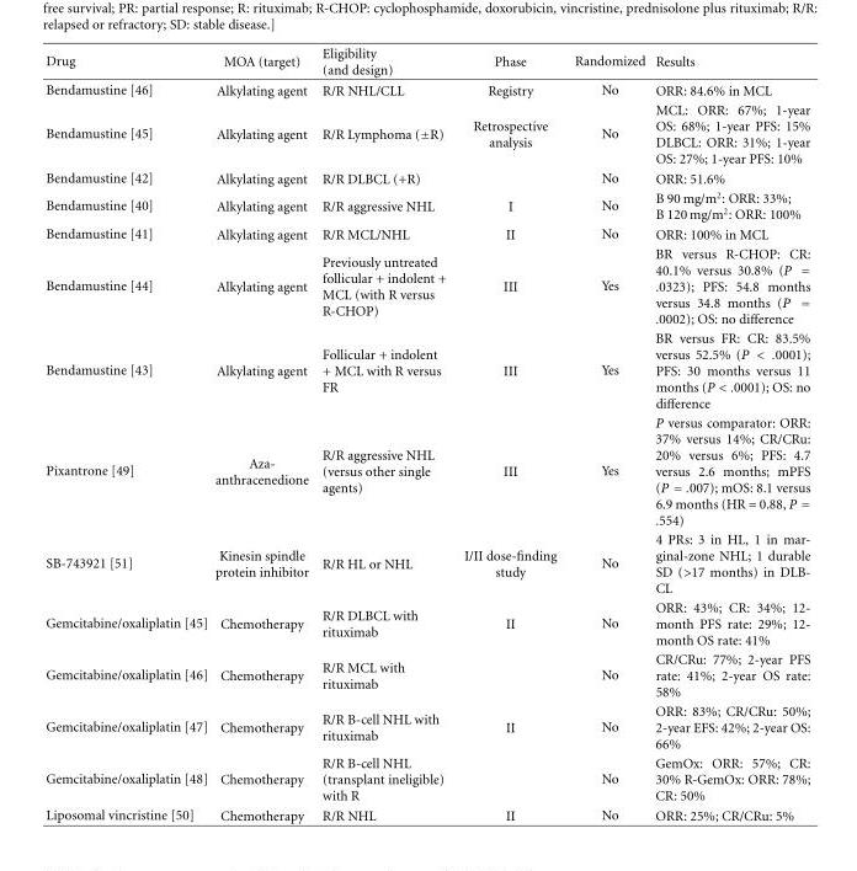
<table><thead><tr><td>Drug</td><td>MOA (target)</td><td>Eligibility (and design)</td><td>Phase</td><td>Randomized</td><td>Results</td></tr></thead><tbody><tr><td>Bendamustine [46]</td><td>Alkylating agent</td><td>R/R NHL/CLL</td><td>Registry</td><td>No</td><td>ORR: 84.6% in MCL</td></tr><tr><td>Bendamustine [45]</td><td>Alkylating agent</td><td>R/R Lymphoma (±R)</td><td>Retrospective analysis</td><td>No</td><td>MCL: ORR: 67%; 1-year OS: 68%; 1-year PFS: 15% DLBCL: ORR: 31%; 1-year OS: 27%; 1-year PFS: 10%</td></tr><tr><td>Bendamustine [42]</td><td>Alkylating agent</td><td>R/R DLBCL (+R)</td><td></td><td>No</td><td>ORR: 51.6%</td></tr><tr><td>Bendamustine [40]</td><td>Alkylating agent</td><td>R/R aggressive NHL</td><td>I</td><td>No</td><td>B 90 mg/m<sup>2</sup>: ORR: 33%; B 120 mg/m<sup>2</sup>: ORR: 100%</td></tr><tr><td>Bendamustine [41]</td><td>Alkylating agent</td><td>R/R MCL/NHL</td><td>II</td><td>No</td><td>ORR: 100% in MCL</td></tr><tr><td>Bendamustine [44]</td><td>Alkylating agent</td><td>Previously untreated follicular + indolent + MCL (with R versus R-CHOP)</td><td>III</td><td>Yes</td><td>BR versus R-CHOP: CR: 40.1% versus 30.8% (P = .0323); PFS: 54.8 months versus 34.8 months (P = .0002); OS: no difference</td></tr><tr><td>Bendamustine [43]</td><td>Alkylating agent</td><td>Follicular + indolent + MCL with R versus FR</td><td>III</td><td>Yes</td><td>BR versus FR: CR: 83.5% versus 52.5% (P &lt; .0001); PFS: 30 months versus 11 months (P &lt; .0001); OS: no difference</td></tr><tr><td>Pixantrone [49]</td><td>Aza- anthracenedione</td><td>R/R aggressive NHL (versus other single agents)</td><td>III</td><td>Yes</td><td>P versus comparator: ORR: 37% versus 14%; CR/CRu: 20% versus 6%; PFS: 4.7 versus 2.6 months; mPFS (P = .007); mOS: 8.1 versus 6.9 months (HR = 0.88, P = .554)</td></tr><tr><td>SB-743921 [51]</td><td>Kinesin spindle protein inhibitor</td><td>R/R HL or NHL</td><td>I/II dose-finding study</td><td>No</td><td>4 PRs: 3 in HL, 1 in mar- ginal-zone NHL; 1 durable SD (&gt;17 months) in DLB- CL</td></tr><tr><td>Gemcitabine/oxaliplatin [45]</td><td>Chemotherapy</td><td>R/R DLBCL with rituximab</td><td>II</td><td>No</td><td>ORR: 43%; CR: 34%; 12- month PFS rate: 29%; 12- month OS rate: 41%</td></tr><tr><td>Gemcitabine/oxaliplatin [46]</td><td>Chemotherapy</td><td>R/R MCL with rituximab</td><td></td><td>No</td><td>CR/CRu: 77%; 2-year PFS rate: 41%; 2-year OS rate: 58%</td></tr><tr><td>Gemcitabine/oxaliplatin [47]</td><td>Chemotherapy</td><td>R/R B-cell NHL with rituximab</td><td>II</td><td>No</td><td>ORR: 83%; CR/CRu: 50%; 2-year EFS: 42%; 2-year OS: 66%</td></tr><tr><td>Gemcitabine/oxaliplatin [48]</td><td>Chemotherapy</td><td>R/R B-cell NHL (transplant ineligible) with R</td><td></td><td>No</td><td>GemOx: ORR: 57%; CR: 30% R-GemOx: ORR: 78%; CR: 50%</td></tr><tr><td>Liposomal vincristine [50]</td><td>Chemotherapy</td><td>R/R NHL</td><td>II</td><td>No</td><td>ORR: 25%; CR/CRu: 5%</td></tr></tbody></table>